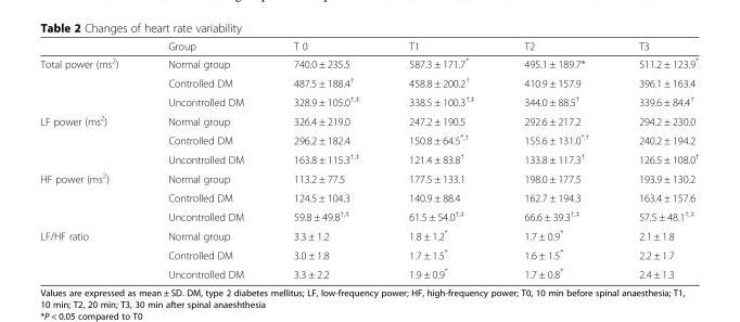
<table><thead><tr><td></td><td>Group</td><td>T 0</td><td>T1</td><td>T2</td><td>T3</td></tr></thead><tbody><tr><td rowspan="3">Total power (ms<sup>2</sup>)</td><td>Normal group</td><td>740.0 ± 235.5</td><td>587.3 ± 171.7*</td><td>495.1 ± 189.7*</td><td>511.2 ± 123.9*</td></tr><tr><td>Controlled DM</td><td>487.5 ± 188.4<sup>†</sup></td><td>458.8 ± 200.2<sup>†</sup></td><td>410.9 ± 157.9</td><td>396.1 ± 163.4</td></tr><tr><td>Uncontrolled DM</td><td>328.9 ± 105.0<sup>†,‡</sup></td><td>338.5 ± 100.3<sup>†,‡</sup></td><td>344.0 ± 88.5<sup>†</sup></td><td>339.6 ± 84.4<sup>†</sup></td></tr><tr><td rowspan="3">LF power (ms<sup>2</sup>)</td><td>Normal group</td><td>326.4 ± 219.0</td><td>247.2 ± 190.5</td><td>292.6 ± 217.2</td><td>294.2 ± 230.0</td></tr><tr><td>Controlled DM</td><td>296.2 ± 182.4</td><td>150.8 ± 64.5<sup>*,†</sup></td><td>155.6 ± 131.0<sup>*,†</sup></td><td>240.2 ± 194.2</td></tr><tr><td>Uncontrolled DM</td><td>163.8 ± 115.3<sup>†,‡</sup></td><td>121.4 ± 83.8<sup>†</sup></td><td>133.8 ± 117.3<sup>†</sup></td><td>126.5 ± 108.0<sup>†</sup></td></tr><tr><td rowspan="3">HF power (ms<sup>2</sup>)</td><td>Normal group</td><td>113.2 ± 77.5</td><td>177.5 ± 133.1</td><td>198.0 ± 177.5</td><td>193.9 ± 130.2</td></tr><tr><td>Controlled DM</td><td>124.5 ± 104.3</td><td>140.9 ± 88.4</td><td>162.7 ± 194.3</td><td>163.4 ± 157.6</td></tr><tr><td>Uncontrolled DM</td><td>59.8 ± 49.8<sup>†,‡</sup></td><td>61.5 ± 54.0<sup>†,‡</sup></td><td>66.6 ± 39.3<sup>†,‡</sup></td><td>57.5 ± 48.1<sup>†,‡</sup></td></tr><tr><td rowspan="3">LF/HF ratio</td><td>Normal group</td><td>3.3 ± 1.2</td><td>1.8 ± 1.2*</td><td>1.7 ± 0.9*</td><td>2.1 ± 1.8</td></tr><tr><td>Controlled DM</td><td>3.0 ± 1.8</td><td>1.7 ± 1.5*</td><td>1.6 ± 1.5*</td><td>2.2 ± 1.7</td></tr><tr><td>Uncontrolled DM</td><td>3.3 ± 2.2</td><td>1.9 ± 0.9*</td><td>1.7 ± 0.8*</td><td>2.4 ± 1.3</td></tr></tbody></table>